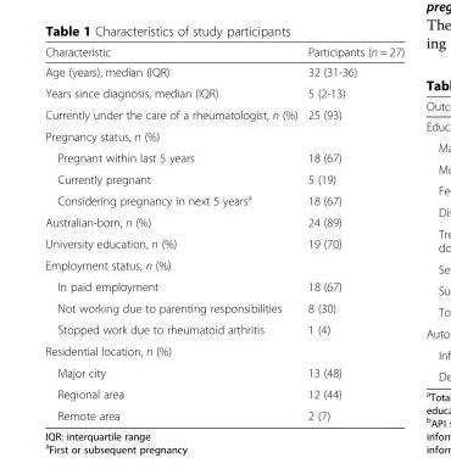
<table><thead><tr><td>Characteristic</td><td>Participants (n = 27)</td></tr></thead><tbody><tr><td>Age (years), median (IQR)</td><td>32 (31-36)</td></tr><tr><td>Years since diagnosis, median (IQR)</td><td>5 (2-13)</td></tr><tr><td>Currently under the care of a rheumatologist, n (%)</td><td>25 (93)</td></tr><tr><td colspan="2">Pregnancy status, n (%)</td></tr><tr><td>Pregnant within last 5 years</td><td>18 (67)</td></tr><tr><td>Currently pregnant</td><td>5 (19)</td></tr><tr><td>Considering pregnancy in next 5 years<sup>a</sup></td><td>18 (67)</td></tr><tr><td>Australian-born, n (%)</td><td>24 (89)</td></tr><tr><td>University education, n (%)</td><td>19 (70)</td></tr><tr><td colspan="2">Employment status, n (%)</td></tr><tr><td>In paid employment</td><td>18 (67)</td></tr><tr><td>Not working due to parenting responsibilities</td><td>8 (30)</td></tr><tr><td>Stopped work due to rheumatoid arthritis</td><td>1 (4)</td></tr><tr><td colspan="2">Residential location, n (%)</td></tr><tr><td>Major city</td><td>13 (48)</td></tr><tr><td>Regional area</td><td>12 (44)</td></tr><tr><td>Remote area</td><td>2 (7)</td></tr></tbody></table>